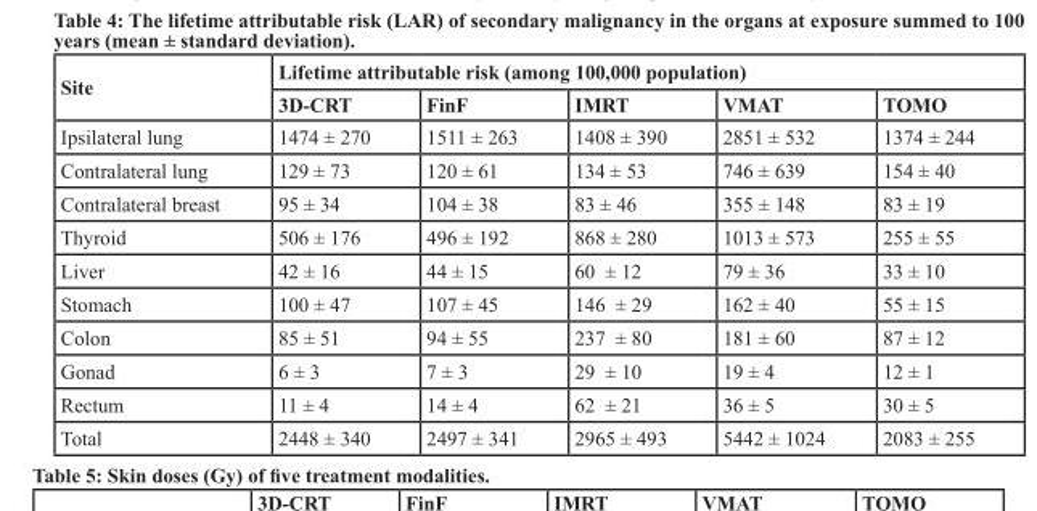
<table><thead><tr><td rowspan="2">Site</td><td colspan="5">Lifetime attributable risk (among 100,000 population)</td></tr><tr><td>3D-CRT</td><td>FinF</td><td>IMRT</td><td>VMAT</td><td>TOMO</td></tr></thead><tbody><tr><td>Ipsilateral lung</td><td>1474 ± 270</td><td>1511 ± 263</td><td>1408 ± 390</td><td>2851 ± 532</td><td>1374 ± 244</td></tr><tr><td>Contralateral lung</td><td>129 ± 73</td><td>120 ± 61</td><td>134 ± 53</td><td>746 ± 639</td><td>154 ± 40</td></tr><tr><td>Contralateral breast</td><td>95 ± 34</td><td>104 ± 38</td><td>83 ± 46</td><td>355 ± 148</td><td>83 ± 19</td></tr><tr><td>Thyroid</td><td>506 ± 176</td><td>496 ± 192</td><td>868 ± 280</td><td>1013 ± 573</td><td>255 ± 55</td></tr><tr><td>Liver</td><td>42 ± 16</td><td>44 ± 15</td><td>60 ± 12</td><td>79 ± 36</td><td>33 ± 10</td></tr><tr><td>Stomach</td><td>100 ± 47</td><td>107 ± 45</td><td>146 ± 29</td><td>162 ± 40</td><td>55 ± 15</td></tr><tr><td>Colon</td><td>85 ± 51</td><td>94 ± 55</td><td>237 ± 80</td><td>181 ± 60</td><td>87 ± 12</td></tr><tr><td>Gonad</td><td>6 ± 3</td><td>7 ± 3</td><td>29 ± 10</td><td>19 ± 4</td><td>12 ± 1</td></tr><tr><td>Rectum</td><td>11 ± 4</td><td>14 ± 4</td><td>62 ± 21</td><td>36 ± 5</td><td>30 ± 5</td></tr><tr><td>Total</td><td>2448 ± 340</td><td>2497 ± 341</td><td>2965 ± 493</td><td>5442 ± 1024</td><td>2083 ± 255</td></tr></tbody></table>